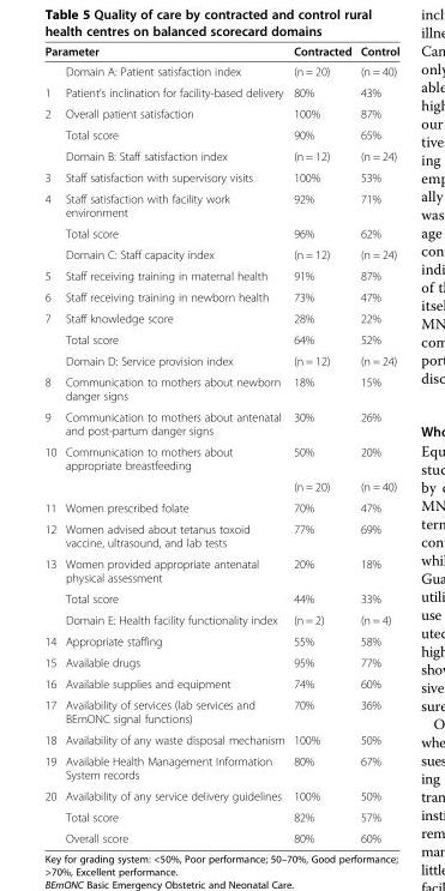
<table><thead><tr><td colspan="2">Parameter</td><td rowspan="2">Contracted (n = 20)</td><td rowspan="2">Control (n = 40)</td></tr><tr><td></td><td>Domain A: Patient satisfaction index</td></tr></thead><tbody><tr><td>1</td><td>Patient’s inclination for facility-based delivery</td><td>80%</td><td>43%</td></tr><tr><td rowspan="3">2</td><td>Overall patient satisfaction</td><td>100%</td><td>87%</td></tr><tr><td>Total score</td><td>90%</td><td>65%</td></tr><tr><td>Domain B: Staff satisfaction index</td><td>(n = 12)</td><td>(n = 24)</td></tr><tr><td>3</td><td>Staff satisfaction with supervisory visits</td><td>100%</td><td>53%</td></tr><tr><td rowspan="3">4</td><td>Staff satisfaction with facility work environment</td><td>92%</td><td>71%</td></tr><tr><td>Total score</td><td>96%</td><td>62%</td></tr><tr><td>Domain C: Staff capacity index</td><td>(n = 12)</td><td>(n = 24)</td></tr><tr><td>5</td><td>Staff receiving training in maternal health</td><td>91%</td><td>87%</td></tr><tr><td>6</td><td>Staff receiving training in newborn health</td><td>73%</td><td>47%</td></tr><tr><td rowspan="3">7</td><td>Staff knowledge score</td><td>28%</td><td>22%</td></tr><tr><td>Total score</td><td>64%</td><td>52%</td></tr><tr><td>Domain D: Service provision index</td><td>(n = 12)</td><td>(n = 24)</td></tr><tr><td>8</td><td>Communication to mothers about newborn danger signs</td><td>18%</td><td>15%</td></tr><tr><td>9</td><td>Communication to mothers about antenatal and post-partum danger signs</td><td>30%</td><td>26%</td></tr><tr><td rowspan="2">10</td><td>Communication to mothers about appropriate breastfeeding</td><td>50%</td><td>20%</td></tr><tr><td></td><td>(n = 20)</td><td>(n = 40)</td></tr><tr><td>11</td><td>Women prescribed folate</td><td>70%</td><td>47%</td></tr><tr><td>12</td><td>Women advised about tetanus toxoid vaccine, ultrasound, and lab tests</td><td>77%</td><td>69%</td></tr><tr><td rowspan="3">13</td><td>Women provided appropriate antenatal physical assessment</td><td>20%</td><td>18%</td></tr><tr><td>Total score</td><td>44%</td><td>33%</td></tr><tr><td>Domain E: Health facility functionality index</td><td>(n = 2)</td><td>(n = 4)</td></tr><tr><td>14</td><td>Appropriate staffing</td><td>55%</td><td>58%</td></tr><tr><td>15</td><td>Available drugs</td><td>95%</td><td>77%</td></tr><tr><td>16</td><td>Available supplies and equipment</td><td>74%</td><td>60%</td></tr><tr><td>17</td><td>Availability of services (lab services and BEmONC signal functions)</td><td>70%</td><td>36%</td></tr><tr><td>18</td><td>Availability of any waste disposal mechanism</td><td>100%</td><td>50%</td></tr><tr><td>19</td><td>Available Health Management Information System records</td><td>80%</td><td>67%</td></tr><tr><td rowspan="3">20</td><td>Availability of any service delivery guidelines</td><td>100%</td><td>50%</td></tr><tr><td>Total score</td><td>82%</td><td>57%</td></tr><tr><td>Overall score</td><td>80%</td><td>60%</td></tr></tbody></table>